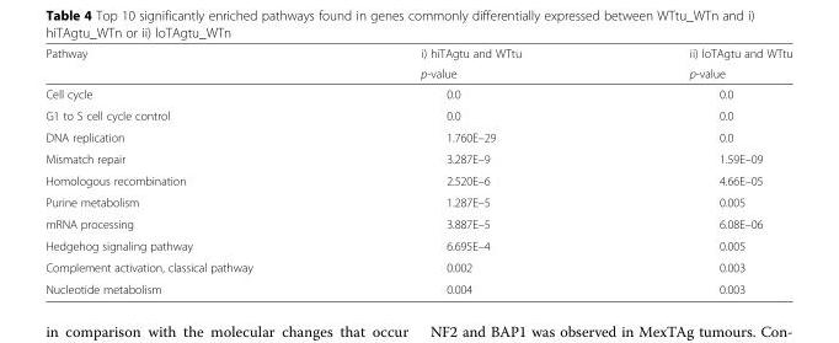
<table><thead><tr><td rowspan="2">Pathway</td><td rowspan="2">i) hiTAgtu and WTtu p-value</td><td rowspan="2">ii) loTAgtu and WTtu p-value</td></tr><tr></tr></thead><tbody><tr><td>Cell cycle</td><td>0.0</td><td>0.0</td></tr><tr><td>G1 to S cell cycle control</td><td>0.0</td><td>0.0</td></tr><tr><td>DNA replication</td><td>1.760E–29</td><td>0.0</td></tr><tr><td>Mismatch repair</td><td>3.287E–9</td><td>1.59E–09</td></tr><tr><td>Homologous recombination</td><td>2.520E–6</td><td>4.66E–05</td></tr><tr><td>Purine metabolism</td><td>1.287E–5</td><td>0.005</td></tr><tr><td>mRNA processing</td><td>3.887E–5</td><td>6.08E–06</td></tr><tr><td>Hedgehog signaling pathway</td><td>6.695E–4</td><td>0.005</td></tr><tr><td>Complement activation, classical pathway</td><td>0.002</td><td>0.003</td></tr><tr><td>Nucleotide metabolism</td><td>0.004</td><td>0.003</td></tr></tbody></table>